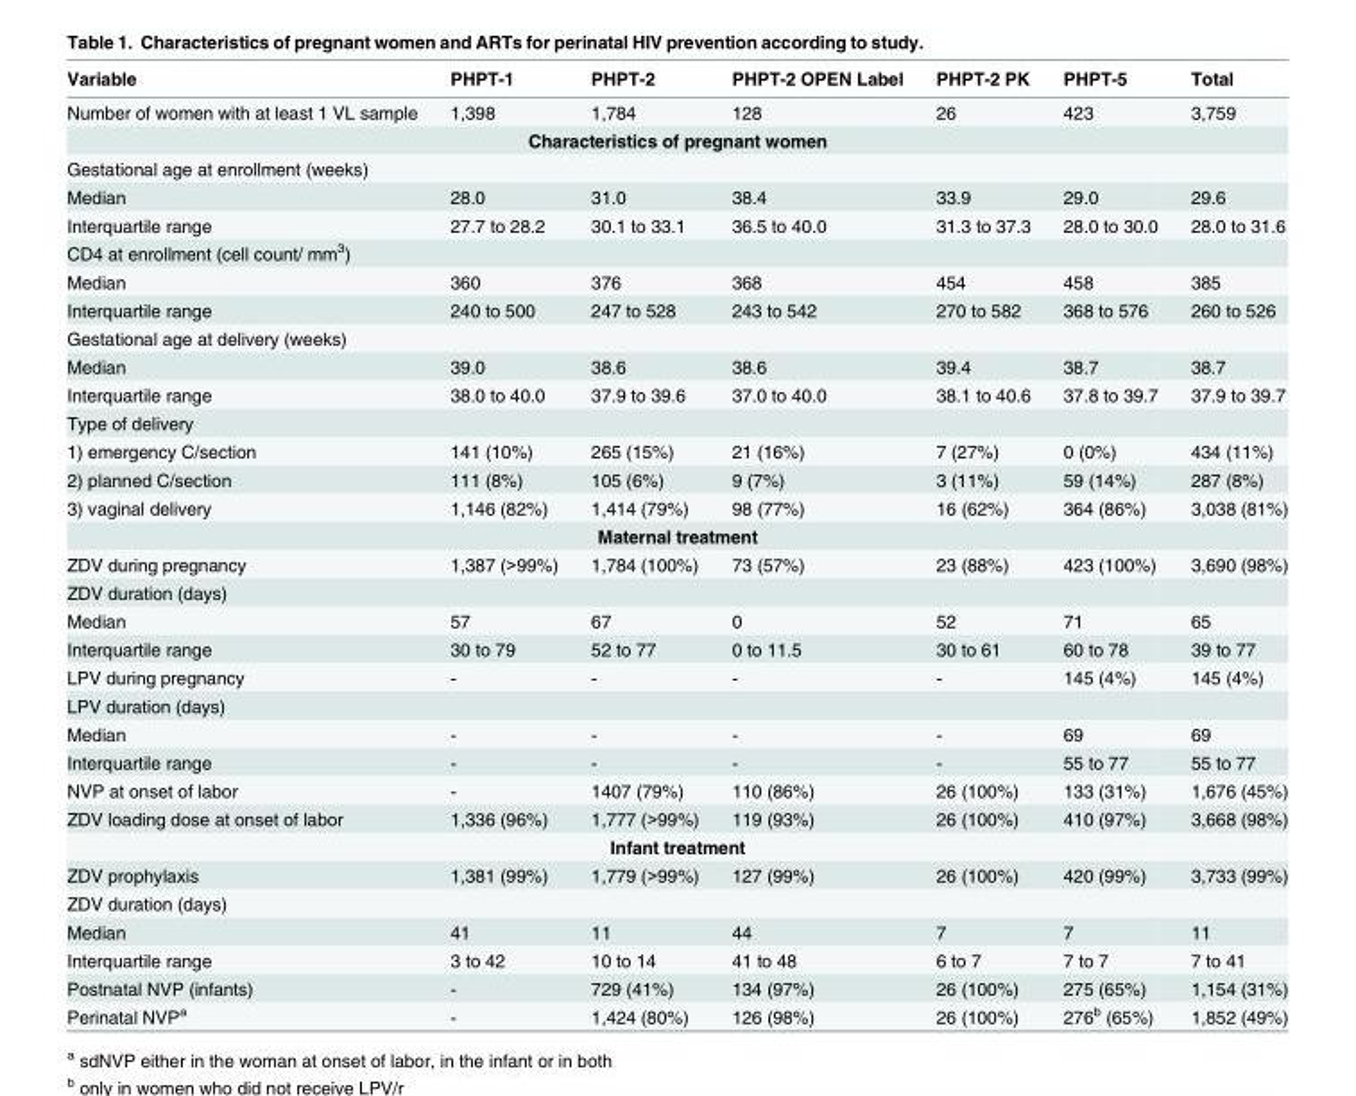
<table><thead><tr><td>Variable</td><td>PHPT-1</td><td>PHPT-2</td><td>PHPT-2 OPEN Label</td><td>PHPT-2 PK</td><td>PHPT-5</td><td>Total</td></tr></thead><tbody><tr><td>Number of women with at least 1 VL sample</td><td>1,398</td><td>1,784</td><td>128</td><td>26</td><td>423</td><td>3,759</td></tr><tr><td colspan="7">Characteristics of pregnant women</td></tr><tr><td colspan="7">Gestational age at enrollment (weeks)</td></tr><tr><td>Median</td><td>28.0</td><td>31.0</td><td>38.4</td><td>33.9</td><td>29.0</td><td>29.6</td></tr><tr><td>Interquartile range</td><td>27.7 to 28.2</td><td>30.1 to 33.1</td><td>36.5 to 40.0</td><td>31.3 to 37.3</td><td>28.0 to 30.0</td><td>28.0 to 31.6</td></tr><tr><td colspan="7">CD4 at enrollment (cell count/ mm<sup>3</sup>)</td></tr><tr><td>Median</td><td>360</td><td>376</td><td>368</td><td>454</td><td>458</td><td>385</td></tr><tr><td>Interquartile range</td><td>240 to 500</td><td>247 to 528</td><td>243 to 542</td><td>270 to 582</td><td>368 to 576</td><td>260 to 526</td></tr><tr><td colspan="7">Gestational age at delivery (weeks)</td></tr><tr><td>Median</td><td>39.0</td><td>38.6</td><td>38.6</td><td>39.4</td><td>38.7</td><td>38.7</td></tr><tr><td>Interquartile range</td><td>38.0 to 40.0</td><td>37.9 to 39.6</td><td>37.0 to 40.0</td><td>38.1 to 40.6</td><td>37.8 to 39.7</td><td>37.9 to 39.7</td></tr><tr><td colspan="7">Type of delivery</td></tr><tr><td>1) emergency C/section</td><td>141 (10%)</td><td>265 (15%)</td><td>21 (16%)</td><td>7 (27%)</td><td>0 (0%)</td><td>434 (11%)</td></tr><tr><td>2) planned C/section</td><td>111 (8%)</td><td>105 (6%)</td><td>9 (7%)</td><td>3 (11%)</td><td>59 (14%)</td><td>287 (8%)</td></tr><tr><td>3) vaginal delivery</td><td>1,146 (82%)</td><td>1,414 (79%)</td><td>98 (77%)</td><td>16 (62%)</td><td>364 (86%)</td><td>3,038 (81%)</td></tr><tr><td colspan="7">Maternal treatment</td></tr><tr><td>ZDV during pregnancy</td><td>1,387 (&gt;99%)</td><td>1,784 (100%)</td><td>73 (57%)</td><td>23 (88%)</td><td>423 (100%)</td><td>3,690 (98%)</td></tr><tr><td colspan="7">ZDV duration (days)</td></tr><tr><td>Median</td><td>57</td><td>67</td><td>0</td><td>52</td><td>71</td><td>65</td></tr><tr><td>Interquartile range</td><td>30 to 79</td><td>52 to 77</td><td>0 to 11.5</td><td>30 to 61</td><td>60 to 78</td><td>39 to 77</td></tr><tr><td>LPV during pregnancy</td><td>-</td><td>-</td><td>-</td><td>-</td><td>145 (4%)</td><td>145 (4%)</td></tr><tr><td colspan="7">LPV duration (days)</td></tr><tr><td>Median</td><td>-</td><td>-</td><td>-</td><td>-</td><td>69</td><td>69</td></tr><tr><td>Interquartile range</td><td>-</td><td>-</td><td>-</td><td>-</td><td>55 to 77</td><td>55 to 77</td></tr><tr><td>NVP at onset of labor</td><td>-</td><td>1407 (79%)</td><td>110 (86%)</td><td>26 (100%)</td><td>133 (31%)</td><td>1,676 (45%)</td></tr><tr><td>ZDV loading dose at onset of labor</td><td>1,336 (96%)</td><td>1,777 (&gt;99%)</td><td>119 (93%)</td><td>26 (100%)</td><td>410 (97%)</td><td>3,668 (98%)</td></tr><tr><td colspan="7">Infant treatment</td></tr><tr><td>ZDV prophylaxis</td><td>1,381 (99%)</td><td>1,779 (&gt;99%)</td><td>127 (99%)</td><td>26 (100%)</td><td>420 (99%)</td><td>3,733 (99%)</td></tr><tr><td colspan="7">ZDV duration (days)</td></tr><tr><td>Median</td><td>41</td><td>11</td><td>44</td><td>7</td><td>7</td><td>11</td></tr><tr><td>Interquartile range</td><td>3 to 42</td><td>10 to 14</td><td>41 to 48</td><td>6 to 7</td><td>7 to 7</td><td>7 to 41</td></tr><tr><td>Postnatal NVP (infants)</td><td>-</td><td>729 (41%)</td><td>134 (97%)</td><td>26 (100%)</td><td>275 (65%)</td><td>1,154 (31%)</td></tr><tr><td>Perinatal NVP<sup>a</sup></td><td>-</td><td>1,424 (80%)</td><td>126 (98%)</td><td>26 (100%)</td><td>276<sup>b</sup> (65%)</td><td>1,852 (49%)</td></tr></tbody></table>